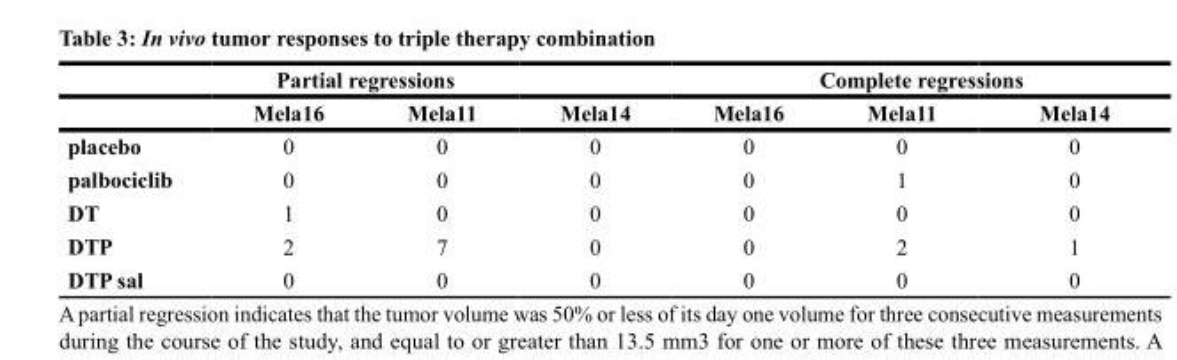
<table><thead><tr><td rowspan="2"></td><td colspan="3">Partial regressions</td><td colspan="3">Complete regressions</td></tr><tr><td>Mela16</td><td>Mela11</td><td>Mela14</td><td>Mela16</td><td>Mela11</td><td>Mela14</td></tr></thead><tbody><tr><td>placebo</td><td>0</td><td>0</td><td>0</td><td>0</td><td>0</td><td>0</td></tr><tr><td>palbociclib</td><td>0</td><td>0</td><td>0</td><td>0</td><td>1</td><td>0</td></tr><tr><td>DT</td><td>1</td><td>0</td><td>0</td><td>0</td><td>0</td><td>0</td></tr><tr><td>DTP</td><td>2</td><td>7</td><td>0</td><td>0</td><td>2</td><td>1</td></tr><tr><td>DTP sal</td><td>0</td><td>0</td><td>0</td><td>0</td><td>0</td><td>0</td></tr></tbody></table>